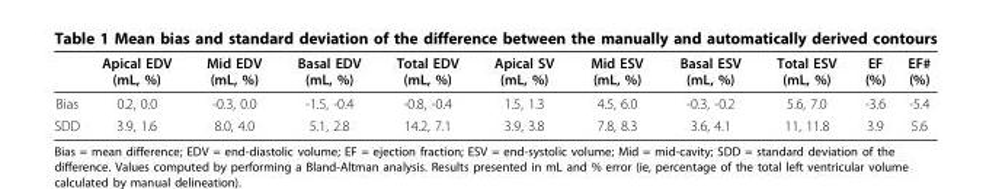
<table><thead><tr><td></td><td>Apical EDV (mL, %)</td><td>Mid EDV (mL, %)</td><td>Basal EDV (mL, %)</td><td>Total EDV (mL, %)</td><td>Apical SV (mL, %)</td><td>Mid ESV (mL, %)</td><td>Basal ESV (mL, %)</td><td>Total ESV (mL, %)</td><td>EF (%)</td><td>EF# (%)</td></tr></thead><tbody><tr><td>Bias</td><td>0.2, 0.0</td><td>-0.3, 0.0</td><td>-1.5, -0.4</td><td>-0.8, -0.4</td><td>1.5, 1.3</td><td>4.5, 6.0</td><td>-0.3, -0.2</td><td>5.6, 7.0</td><td>-3.6</td><td>-5.4</td></tr><tr><td>SDD</td><td>3.9, 1.6</td><td>8.0, 4.0</td><td>5.1, 2.8</td><td>14.2, 7.1</td><td>3.9, 3.8</td><td>7.8, 8.3</td><td>3.6, 4.1</td><td>11, 11.8</td><td>3.9</td><td>5.6</td></tr></tbody></table>